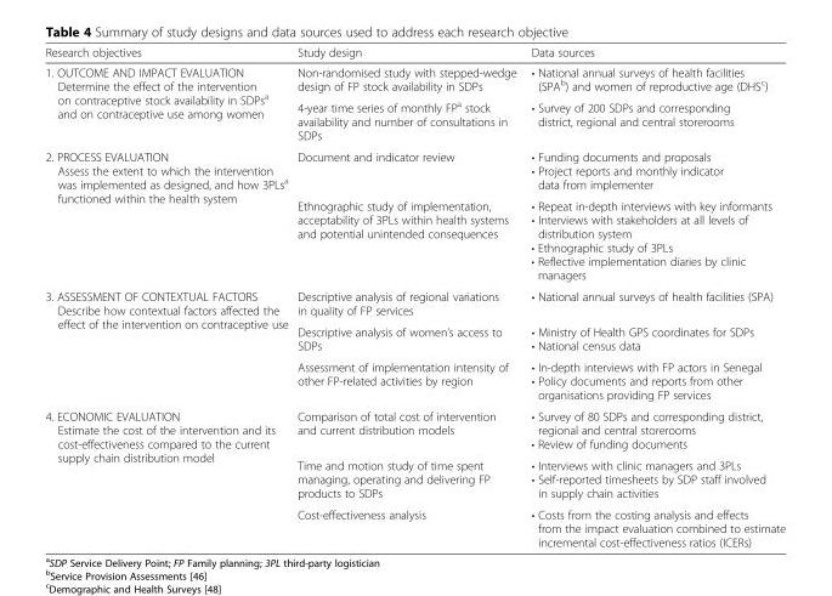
<table><thead><tr><td>Research objectives</td><td>Study design</td><td>Data sources</td></tr></thead><tbody><tr><td rowspan="2">1. OUTCOME AND IMPACT EVALUATION Determine the effect of the intervention on contraceptive stock availability in SDPs<sup>a</sup> and on contraceptive use among women</td><td>Non-randomised study with stepped-wedge design of FP stock availability in SDPs</td><td>• National annual surveys of health facilities (SPA<sup>b</sup>) and women of reproductive age (DHS<sup>c</sup>)</td></tr><tr><td>4-year time series of monthly FP<sup>a</sup> stock availability and number of consultations in SDPs</td><td>• Survey of 200 SDPs and corresponding district, regional and central storerooms</td></tr><tr><td rowspan="2">2. PROCESS EVALUATION Assess the extent to which the intervention was implemented as designed, and how 3PLs<sup>a</sup> functioned within the health system</td><td>Document and indicator review</td><td>• Funding documents and proposals • Project reports and monthly indicator data from implementer</td></tr><tr><td>Ethnographic study of implementation, acceptability of 3PLs within health systems and potential unintended consequences</td><td>• Repeat in-depth interviews with key informants • Interviews with stakeholders at all levels of distribution system • Ethnographic study of 3PLs • Reflective implementation diaries by clinic managers</td></tr><tr><td rowspan="3">3. ASSESSMENT OF CONTEXTUAL FACTORS Describe how contextual factors affected the effect of the intervention on contraceptive use</td><td>Descriptive analysis of regional variations in quality of FP services</td><td>• National annual surveys of health facilities (SPA)</td></tr><tr><td>Descriptive analysis of women’s access to SDPs</td><td>• Ministry of Health GPS coordinates for SDPs • National census data</td></tr><tr><td>Assessment of implementation intensity of other FP-related activities by region</td><td>• In-depth interviews with FP actors in Senegal • Policy documents and reports from other organisations providing FP services</td></tr><tr><td rowspan="3">4. ECONOMIC EVALUATION Estimate the cost of the intervention and its cost-effectiveness compared to the current supply chain distribution model</td><td>Comparison of total cost of intervention and current distribution models</td><td>• Survey of 80 SDPs and corresponding district, regional and central storerooms • Review of funding documents</td></tr><tr><td>Time and motion study of time spent managing, operating and delivering FP products to SDPs</td><td>• Interviews with clinic managers and 3PLs • Self-reported timesheets by SDP staff involved in supply chain activities</td></tr><tr><td>Cost-effectiveness analysis</td><td>• Costs from the costing analysis and effects from the impact evaluation combined to estimate incremental cost-effectiveness ratios (ICERs)</td></tr></tbody></table>